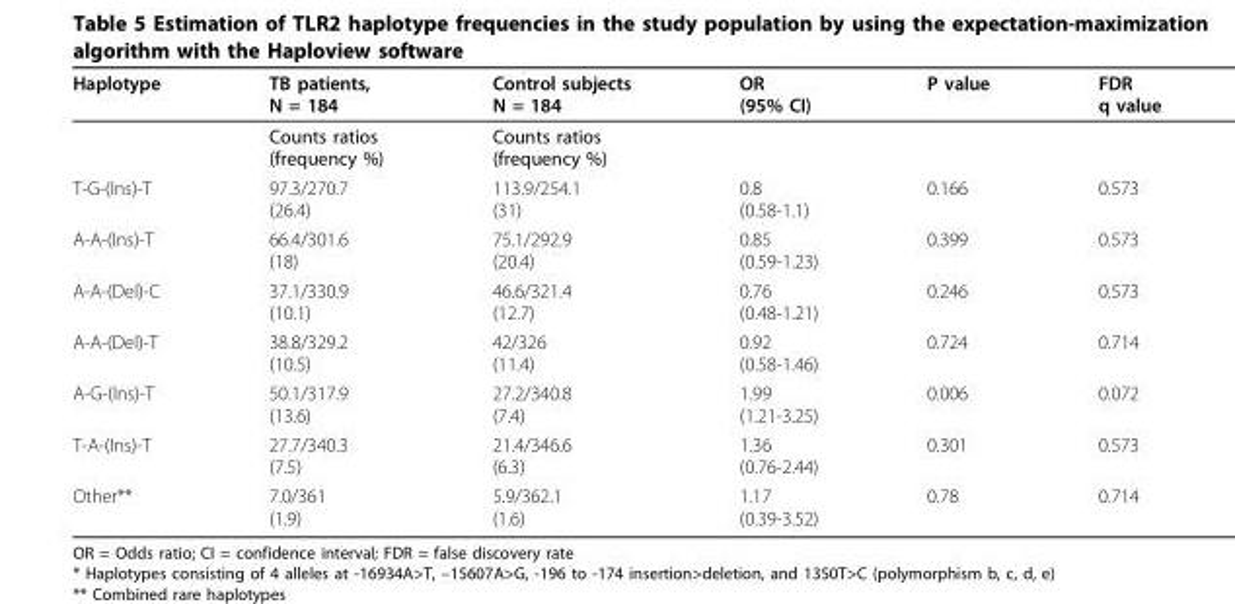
<table><thead><tr><td rowspan="2">Haplotype</td><td rowspan="2">TB patients, N = 184 Counts ratios (frequency %)</td><td rowspan="2">Control subjects N = 184 Counts ratios (frequency %)</td><td rowspan="2">OR (95% CI)</td><td rowspan="2">P value</td><td rowspan="2">FDR q value</td></tr><tr></tr></thead><tbody><tr><td>T-G-(Ins)-T</td><td>97.3/270.7 (26.4)</td><td>113.9/254.1 (31)</td><td>0.8 (0.58-1.1)</td><td>0.166</td><td>0.573</td></tr><tr><td>A-A-(Ins)-T</td><td>66.4/301.6 (18)</td><td>75.1/292.9 (20.4)</td><td>0.85 (0.59-1.23)</td><td>0.399</td><td>0.573</td></tr><tr><td>A-A-(Del)-C</td><td>37.1/330.9 (10.1)</td><td>46.6/321.4 (12.7)</td><td>0.76 (0.48-1.21)</td><td>0.246</td><td>0.573</td></tr><tr><td>A-A-(Del)-T</td><td>38.8/329.2 (10.5)</td><td>42/326 (11.4)</td><td>0.92 (0.58-1.46)</td><td>0.724</td><td>0.714</td></tr><tr><td>A-G-(Ins)-T</td><td>50.1/317.9 (13.6)</td><td>27.2/340.8 (7.4)</td><td>1.99 (1.21-3.25)</td><td>0.006</td><td>0.072</td></tr><tr><td>T-A-(Ins)-T</td><td>27.7/340.3 (7.5)</td><td>21.4/346.6 (6.3)</td><td>1.36 (0.76-2.44)</td><td>0.301</td><td>0.573</td></tr><tr><td>Other**</td><td>7.0/361 (1.9)</td><td>5.9/362.1 (1.6)</td><td>1.17 (0.39-3.52)</td><td>0.78</td><td>0.714</td></tr></tbody></table>